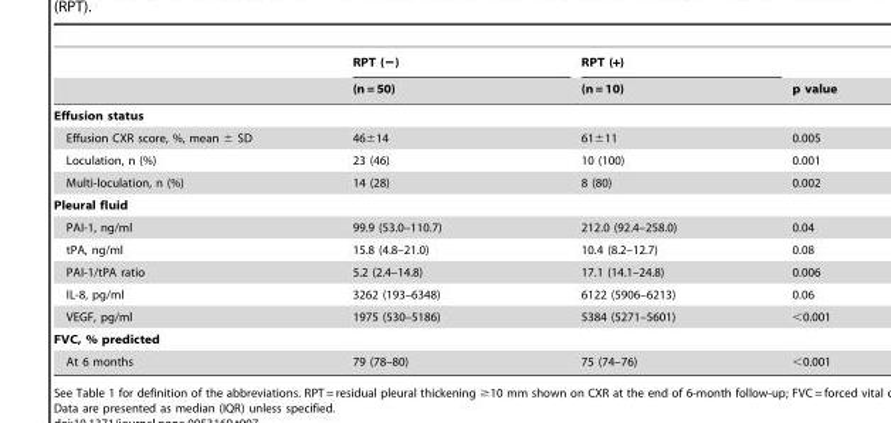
<table><thead><tr><td rowspan="2"></td><td rowspan="2">RPT (−) (n = 50)</td><td rowspan="2">RPT (+) (n = 10)</td><td rowspan="2">p value</td></tr><tr></tr></thead><tbody><tr><td colspan="4">Effusion status</td></tr><tr><td>Effusion CXR score, %, mean ± SD</td><td>46±14</td><td>61±11</td><td>0.005</td></tr><tr><td>Loculation, n (%)</td><td>23 (46)</td><td>10 (100)</td><td>0.001</td></tr><tr><td>Multi-loculation, n (%)</td><td>14 (28)</td><td>8 (80)</td><td>0.002</td></tr><tr><td colspan="4">Pleural fluid</td></tr><tr><td>PAI-1, ng/ml</td><td>99.9 (53.0–110.7)</td><td>212.0 (92.4–258.0)</td><td>0.04</td></tr><tr><td>tPA, ng/ml</td><td>15.8 (4.8–21.0)</td><td>10.4 (8.2–12.7)</td><td>0.08</td></tr><tr><td>PAI-1/tPA ratio</td><td>5.2 (2.4–14.8)</td><td>17.1 (14.1–24.8)</td><td>0.006</td></tr><tr><td>IL-8, pg/ml</td><td>3262 (193–6348)</td><td>6122 (5906–6213)</td><td>0.06</td></tr><tr><td>VEGF, pg/ml</td><td>1975 (530–5186)</td><td>5384 (5271–5601)</td><td>&lt;0.001</td></tr><tr><td colspan="4">FVC, % predicted</td></tr><tr><td>At 6 months</td><td>79 (78–80)</td><td>75 (74–76)</td><td>&lt;0.001</td></tr></tbody></table>